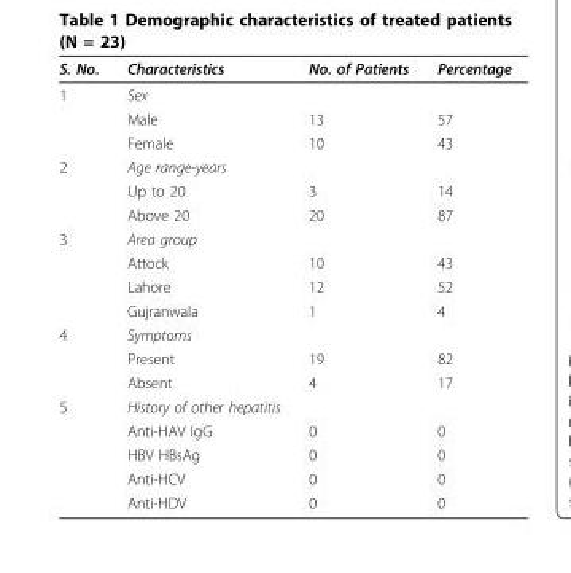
<table><thead><tr><td>S. No.</td><td>Characteristics</td><td>No. of Patients</td><td>Percentage</td></tr></thead><tbody><tr><td rowspan="3">1</td><td>Sex</td><td></td><td></td></tr><tr><td>Male</td><td>13</td><td>57</td></tr><tr><td>Female</td><td>10</td><td>43</td></tr><tr><td rowspan="3">2</td><td>Age range-years</td><td></td><td></td></tr><tr><td>Up to 20</td><td>3</td><td>14</td></tr><tr><td>Above 20</td><td>20</td><td>87</td></tr><tr><td rowspan="4">3</td><td>Area group</td><td></td><td></td></tr><tr><td>Attock</td><td>10</td><td>43</td></tr><tr><td>Lahore</td><td>12</td><td>52</td></tr><tr><td>Gujranwala</td><td>1</td><td>4</td></tr><tr><td rowspan="3">4</td><td>Symptoms</td><td></td><td></td></tr><tr><td>Present</td><td>19</td><td>82</td></tr><tr><td>Absent</td><td>4</td><td>17</td></tr><tr><td rowspan="5">5</td><td>History of other hepatitis</td><td></td><td></td></tr><tr><td>Anti-HAV IgG</td><td>0</td><td>0</td></tr><tr><td>HBV HBsAg</td><td>0</td><td>0</td></tr><tr><td>Anti-HCV</td><td>0</td><td>0</td></tr><tr><td>Anti-HDV</td><td>0</td><td>0</td></tr></tbody></table>